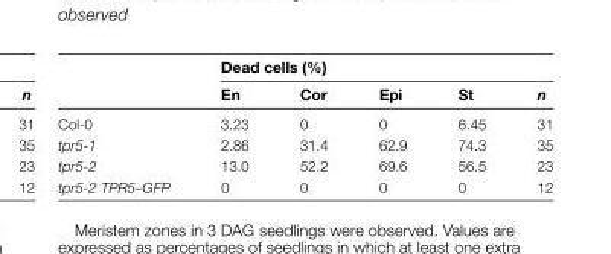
<table><thead><tr><td rowspan="2"></td><td colspan="4">Dead cells (%)</td><td rowspan="2">n</td></tr><tr><td>En</td><td>Cor</td><td>Epi</td><td>St</td></tr></thead><tbody><tr><td>Col-0</td><td>3.23</td><td>0</td><td>0</td><td>6.45</td><td>31</td></tr><tr><td>tpr5-1</td><td>2.86</td><td>31.4</td><td>62.9</td><td>74.3</td><td>35</td></tr><tr><td>tpr5-2</td><td>13.0</td><td>52.2</td><td>69.6</td><td>56.5</td><td>23</td></tr><tr><td>tpr5-2 TPR5–GFP</td><td>0</td><td>0</td><td>0</td><td>0</td><td>12</td></tr></tbody></table>